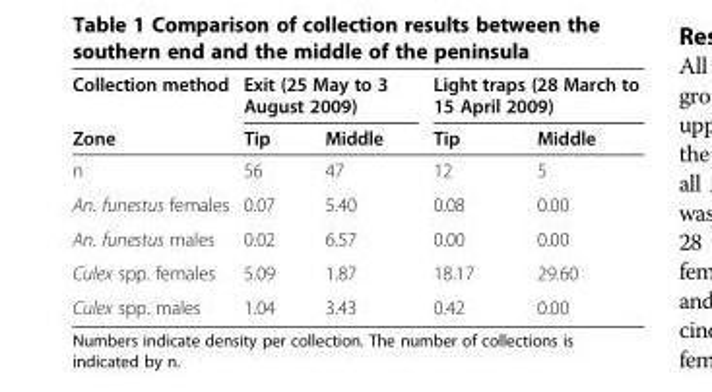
<table><thead><tr><td rowspan="2">Collection method Zone</td><td colspan="2">Exit (25 May to 3 August 2009)</td><td colspan="2">Light traps (28 March to 15 April 2009)</td></tr><tr><td>Tip</td><td>Middle</td><td>Tip</td><td>Middle</td></tr></thead><tbody><tr><td>n</td><td>56</td><td>47</td><td>12</td><td>5</td></tr><tr><td>An. funestus females</td><td>0.07</td><td>5.40</td><td>0.08</td><td>0.00</td></tr><tr><td>An. funestus males</td><td>0.02</td><td>6.57</td><td>0.00</td><td>0.00</td></tr><tr><td>Culex spp. females</td><td>5.09</td><td>1.87</td><td>18.17</td><td>29.60</td></tr><tr><td>Culex spp. males</td><td>1.04</td><td>3.43</td><td>0.42</td><td>0.00</td></tr></tbody></table>